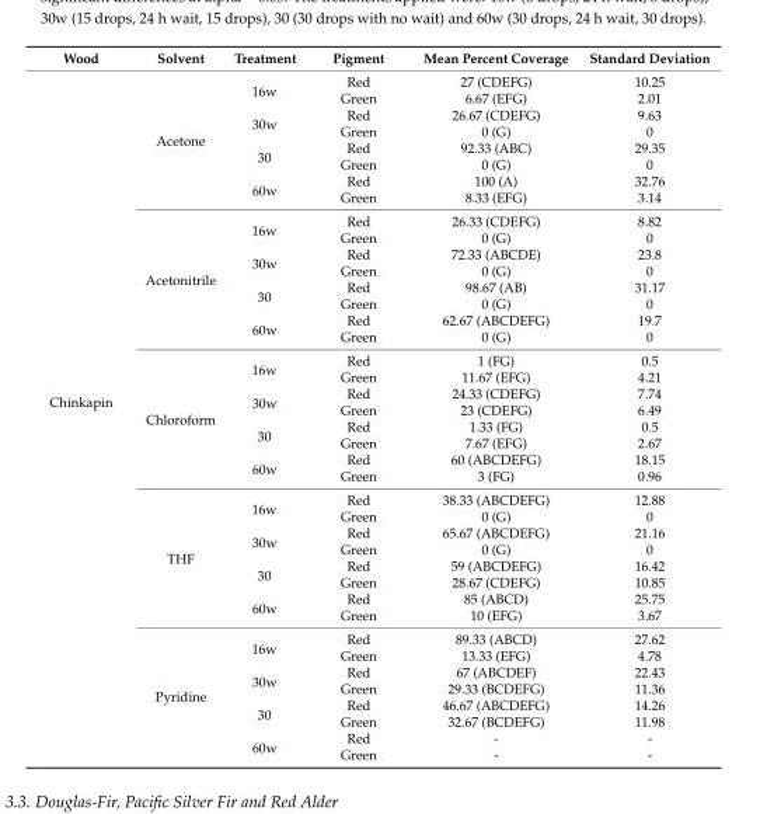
<table><thead><tr><td>Wood</td><td>Solvent</td><td>Treatment</td><td>Pigment</td><td>Mean Percent Coverage</td><td>Standard Deviation</td></tr></thead><tbody><tr><td rowspan="40">Chinkapin</td><td rowspan="8">Acetone</td><td rowspan="2">16w</td><td>Red</td><td>27 (CDEFG)</td><td>10.25</td></tr><tr><td>Green</td><td>6.67 (EFG)</td><td>2.01</td></tr><tr><td rowspan="2">30w</td><td>Red</td><td>26.67 (CDEFG)</td><td>9.63</td></tr><tr><td>Green</td><td>0 (G)</td><td>0</td></tr><tr><td rowspan="2">30</td><td>Red</td><td>92.33 (ABC)</td><td>29.35</td></tr><tr><td>Green</td><td>0 (G)</td><td>0</td></tr><tr><td rowspan="2">60w</td><td>Red</td><td>100 (A)</td><td>32.76</td></tr><tr><td>Green</td><td>8.33 (EFG)</td><td>3.14</td></tr><tr><td rowspan="8">Acetonitrile</td><td rowspan="2">16w</td><td>Red</td><td>26.33 (CDEFG)</td><td>8.82</td></tr><tr><td>Green</td><td>0 (G)</td><td>0</td></tr><tr><td rowspan="2">30w</td><td>Red</td><td>72.33 (ABCDE)</td><td>23.8</td></tr><tr><td>Green</td><td>0 (G)</td><td>0</td></tr><tr><td rowspan="2">30</td><td>Red</td><td>98.67 (AB)</td><td>31.17</td></tr><tr><td>Green</td><td>0 (G)</td><td>0</td></tr><tr><td rowspan="2">60w</td><td>Red</td><td>62.67 (ABCDEFG)</td><td>19.7</td></tr><tr><td>Green</td><td>0 (G)</td><td>0</td></tr><tr><td rowspan="8">Chloroform</td><td rowspan="2">16w</td><td>Red</td><td>1 (FG)</td><td>0.5</td></tr><tr><td>Green</td><td>11.67 (EFG)</td><td>4.21</td></tr><tr><td rowspan="2">30w</td><td>Red</td><td>24.33 (CDEFG)</td><td>7.74</td></tr><tr><td>Green</td><td>23 (CDEFG)</td><td>6.49</td></tr><tr><td rowspan="2">30</td><td>Red</td><td>1.33 (FG)</td><td>0.5</td></tr><tr><td>Green</td><td>7.67 (EFG)</td><td>2.67</td></tr><tr><td rowspan="2">60w</td><td>Red</td><td>60 (ABCDEFG)</td><td>18.15</td></tr><tr><td>Green</td><td>3 (FG)</td><td>0.96</td></tr><tr><td rowspan="8">THF</td><td rowspan="2">16w</td><td>Red</td><td>38.33 (ABCDEFG)</td><td>12.88</td></tr><tr><td>Green</td><td>0 (G)</td><td>0</td></tr><tr><td rowspan="2">30w</td><td>Red</td><td>65.67 (ABCDEFG)</td><td>21.16</td></tr><tr><td>Green</td><td>0 (G)</td><td>0</td></tr><tr><td rowspan="2">30</td><td>Red</td><td>59 (ABCDEFG)</td><td>16.42</td></tr><tr><td>Green</td><td>28.67 (CDEFG)</td><td>10.85</td></tr><tr><td rowspan="2">60w</td><td>Red</td><td>85 (ABCD)</td><td>25.75</td></tr><tr><td>Green</td><td>10 (EFG)</td><td>3.67</td></tr><tr><td rowspan="8">Pyridine</td><td rowspan="2">16w</td><td>Red</td><td>89.33 (ABCD)</td><td>27.62</td></tr><tr><td>Green</td><td>13.33 (EFG)</td><td>4.78</td></tr><tr><td rowspan="2">30w</td><td>Red</td><td>67 (ABCDEF)</td><td>22.43</td></tr><tr><td>Green</td><td>29.33 (BCDEFG)</td><td>11.36</td></tr><tr><td rowspan="2">30</td><td>Red</td><td>46.67 (ABCDEFG)</td><td>14.26</td></tr><tr><td>Green</td><td>32.67 (BCDEFG)</td><td>11.98</td></tr><tr><td rowspan="2">60w</td><td>Red</td><td>-</td><td>-</td></tr><tr><td>Green</td><td>-</td><td>-</td></tr></tbody></table>